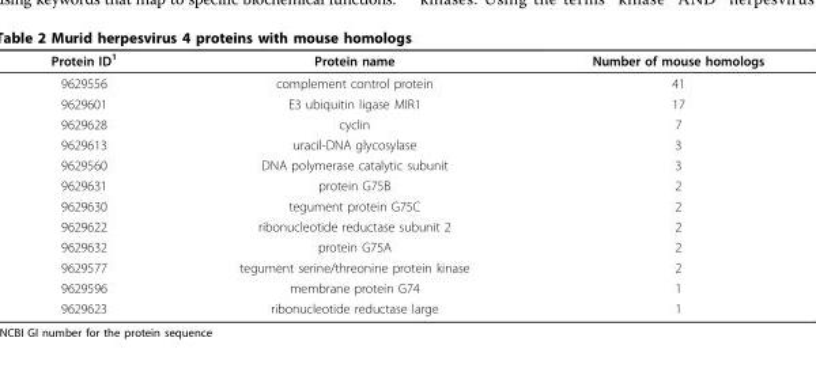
<table><thead><tr><td>Protein ID<sup>1</sup></td><td>Protein name</td><td>Number of mouse homologs</td></tr></thead><tbody><tr><td>9629556</td><td>complement control protein</td><td>41</td></tr><tr><td>9629601</td><td>E3 ubiquitin ligase MIR1</td><td>17</td></tr><tr><td>9629628</td><td>cyclin</td><td>7</td></tr><tr><td>9629613</td><td>uracil-DNA glycosylase</td><td>3</td></tr><tr><td>9629560</td><td>DNA polymerase catalytic subunit</td><td>3</td></tr><tr><td>9629631</td><td>protein G75B</td><td>2</td></tr><tr><td>9629630</td><td>tegument protein G75C</td><td>2</td></tr><tr><td>9629622</td><td>ribonucleotide reductase subunit 2</td><td>2</td></tr><tr><td>9629632</td><td>protein G75A</td><td>2</td></tr><tr><td>9629577</td><td>tegument serine/threonine protein kinase</td><td>2</td></tr><tr><td>9629596</td><td>membrane protein G74</td><td>1</td></tr><tr><td>9629623</td><td>ribonucleotide reductase large</td><td>1</td></tr></tbody></table>